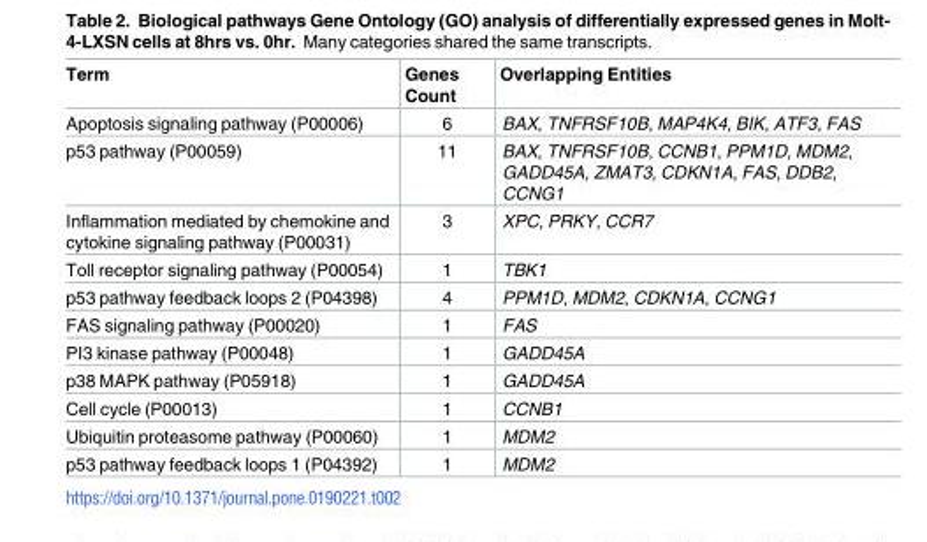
<table><thead><tr><td>Term</td><td>Genes Count</td><td>Overlapping Entities</td></tr></thead><tbody><tr><td>Apoptosis signaling pathway (P00006)</td><td>6</td><td>BAX, TNFRSF10B, MAP4K4, BIK, ATF3, FAS</td></tr><tr><td>p53 pathway (P00059)</td><td>11</td><td>BAX, TNFRSF10B, CCNB1, PPM1D, MDM2, GADD45A, ZMAT3, CDKN1A, FAS, DDB2, CCNG1</td></tr><tr><td>Inflammation mediated by chemokine and cytokine signaling pathway (P00031)</td><td>3</td><td>XPC, PRKY, CCR7</td></tr><tr><td>Toll receptor signaling pathway (P00054)</td><td>1</td><td>TBK1</td></tr><tr><td>p53 pathway feedback loops 2 (P04398)</td><td>4</td><td>PPM1D, MDM2, CDKN1A, CCNG1</td></tr><tr><td>FAS signaling pathway (P00020)</td><td>1</td><td>FAS</td></tr><tr><td>PI3 kinase pathway (P00048)</td><td>1</td><td>GADD45A</td></tr><tr><td>p38 MAPK pathway (P05918)</td><td>1</td><td>GADD45A</td></tr><tr><td>Cell cycle (P00013)</td><td>1</td><td>CCNB1</td></tr><tr><td>Ubiquitin proteasome pathway (P00060)</td><td>1</td><td>MDM2</td></tr><tr><td>p53 pathway feedback loops 1 (P04392)</td><td>1</td><td>MDM2</td></tr></tbody></table>